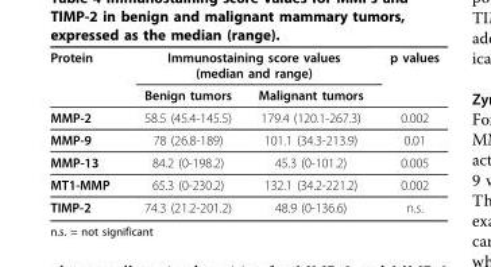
<table><thead><tr><td rowspan="2">Protein</td><td colspan="2">Immunostaining score values (median and range)</td><td rowspan="2">p values</td></tr><tr><td>Benign tumors</td><td>Malignant tumors</td></tr></thead><tbody><tr><td>MMP-2</td><td>58.5 (45.4-145.5)</td><td>179.4 (120.1-267.3)</td><td>0.002</td></tr><tr><td>MMP-9</td><td>78 (26.8-189)</td><td>101.1 (34.3-213.9)</td><td>0.01</td></tr><tr><td>MMP-13</td><td>84.2 (0-198.2)</td><td>45.3 (0-101.2)</td><td>0.005</td></tr><tr><td>MT1-MMP</td><td>65.3 (0-230.2)</td><td>132.1 (34.2-221.2)</td><td>0.002</td></tr><tr><td>TIMP-2</td><td>74.3 (21.2-201.2)</td><td>48.9 (0-136.6)</td><td>n.s.</td></tr></tbody></table>